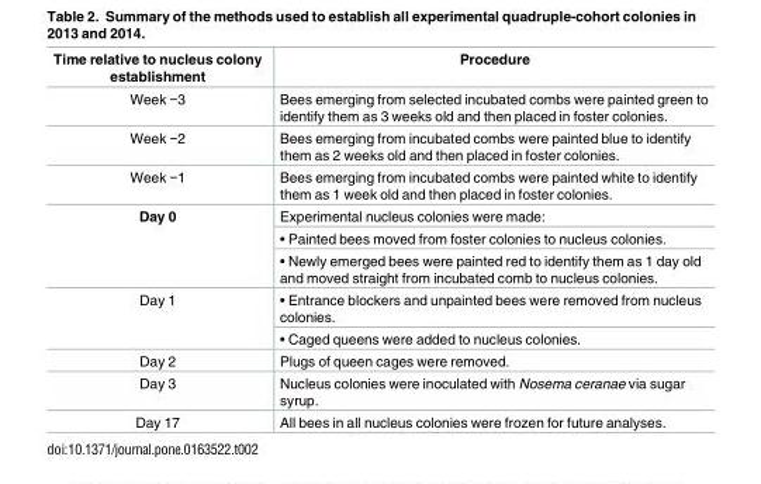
<table><thead><tr><td>Time relative to nucleus colony establishment</td><td>Procedure</td></tr></thead><tbody><tr><td>Week −3</td><td>Bees emerging from selected incubated combs were painted green to identify them as 3 weeks old and then placed in foster colonies.</td></tr><tr><td>Week −2</td><td>Bees emerging from incubated combs were painted blue to identify them as 2 weeks old and then placed in foster colonies.</td></tr><tr><td>Week −1</td><td>Bees emerging from incubated combs were painted white to identify them as 1 week old and then placed in foster colonies.</td></tr><tr><td rowspan="3">Day 0</td><td>Experimental nucleus colonies were made:</td></tr><tr><td>• Painted bees moved from foster colonies to nucleus colonies.</td></tr><tr><td>• Newly emerged bees were painted red to identify them as 1 day old and moved straight from incubated comb to nucleus colonies.</td></tr><tr><td rowspan="2">Day 1</td><td>• Entrance blockers and unpainted bees were removed from nucleus colonies.</td></tr><tr><td>• Caged queens were added to nucleus colonies.</td></tr><tr><td>Day 2</td><td>Plugs of queen cages were removed.</td></tr><tr><td>Day 3</td><td>Nucleus colonies were inoculated with Nosema ceranae via sugar syrup.</td></tr><tr><td>Day 17</td><td>All bees in all nucleus colonies were frozen for future analyses.</td></tr></tbody></table>